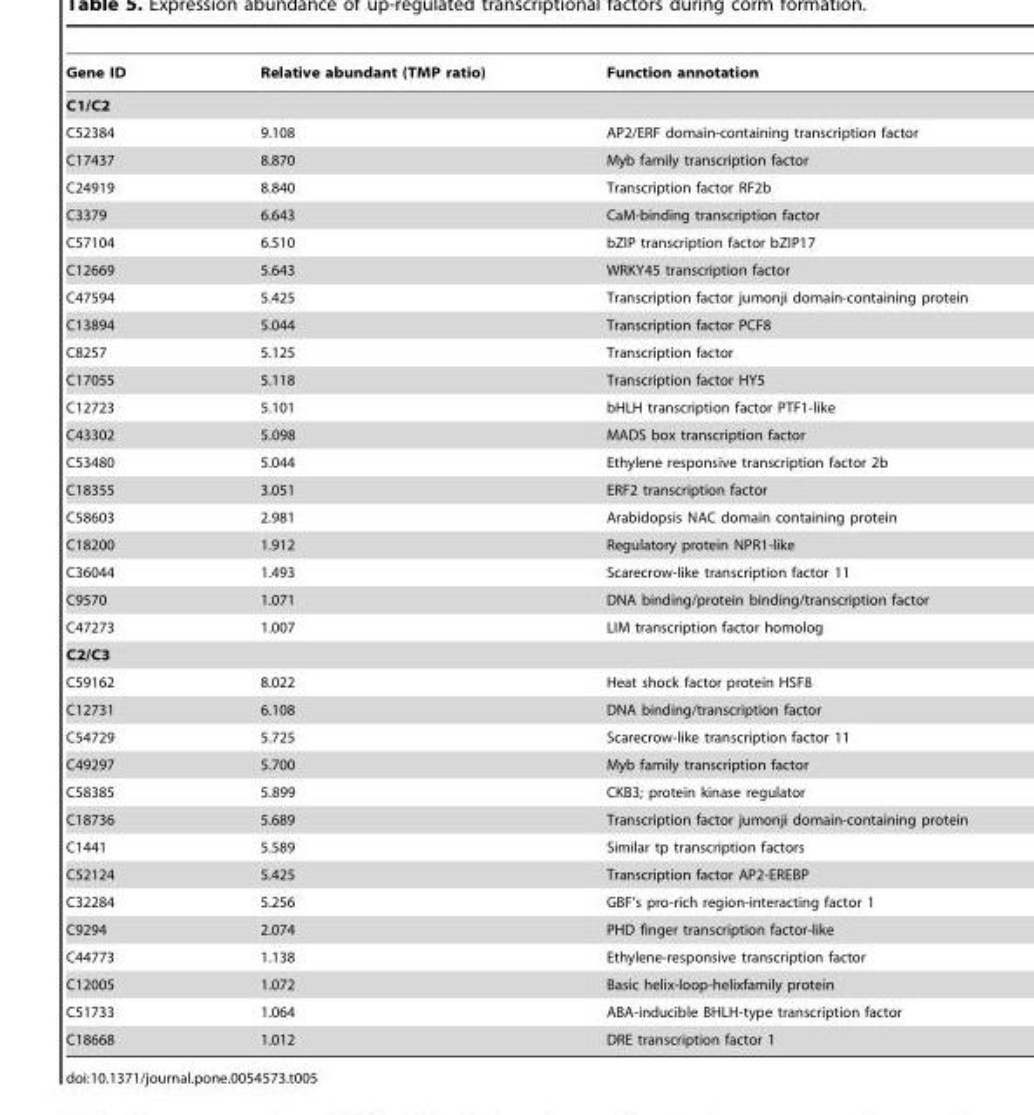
<table><thead><tr><td>Gene ID</td><td>Relative abundant (TMP ratio)</td><td>Function annotation</td></tr></thead><tbody><tr><td colspan="3">C1/C2</td></tr><tr><td>C52384</td><td>9.108</td><td>AP2/ERF domain-containing transcription factor</td></tr><tr><td>C17437</td><td>8.870</td><td>Myb family transcription factor</td></tr><tr><td>C24919</td><td>8.840</td><td>Transcription factor RF2b</td></tr><tr><td>C3379</td><td>6.643</td><td>CaM-binding transcription factor</td></tr><tr><td>C57104</td><td>6.510</td><td>bZIP transcription factor bZIP17</td></tr><tr><td>C12669</td><td>5.643</td><td>WRKY45 transcription factor</td></tr><tr><td>C47594</td><td>5.425</td><td>Transcription factor jumonji domain-containing protein</td></tr><tr><td>C13894</td><td>5.044</td><td>Transcription factor PCF8</td></tr><tr><td>C8257</td><td>5.125</td><td>Transcription factor</td></tr><tr><td>C17055</td><td>5.118</td><td>Transcription factor HY5</td></tr><tr><td>C12723</td><td>5.101</td><td>bHLH transcription factor PTF1-like</td></tr><tr><td>C43302</td><td>5.098</td><td>MADS box transcription factor</td></tr><tr><td>C53480</td><td>5.044</td><td>Ethylene responsive transcription factor 2b</td></tr><tr><td>C18355</td><td>3.051</td><td>ERF2 transcription factor</td></tr><tr><td>C58603</td><td>2.981</td><td>Arabidopsis NAC domain containing protein</td></tr><tr><td>C18200</td><td>1.912</td><td>Regulatory protein NPR1-like</td></tr><tr><td>C36044</td><td>1.493</td><td>Scarecrow-like transcription factor 11</td></tr><tr><td>C9570</td><td>1.071</td><td>DNA binding/protein binding/transcription factor</td></tr><tr><td>C47273</td><td>1.007</td><td>LIM transcription factor homolog</td></tr><tr><td colspan="3">C2/C3</td></tr><tr><td>C59162</td><td>8.022</td><td>Heat shock factor protein HSF8</td></tr><tr><td>C12731</td><td>6.108</td><td>DNA binding/transcription factor</td></tr><tr><td>C54729</td><td>5.725</td><td>Scarecrow-like transcription factor 11</td></tr><tr><td>C49297</td><td>5.700</td><td>Myb family transcription factor</td></tr><tr><td>C58385</td><td>5.899</td><td>CKB3; protein kinase regulator</td></tr><tr><td>C18736</td><td>5.689</td><td>Transcription factor jumonji domain-containing protein</td></tr><tr><td>C1441</td><td>5.589</td><td>Similar tp transcription factors</td></tr><tr><td>C52124</td><td>5.425</td><td>Transcription factor AP2-EREBP</td></tr><tr><td>C32284</td><td>5.256</td><td>GBF’s pro-rich region-interacting factor 1</td></tr><tr><td>C9294</td><td>2.074</td><td>PHD finger transcription factor-like</td></tr><tr><td>C44773</td><td>1.138</td><td>Ethylene-responsive transcription factor</td></tr><tr><td>C12005</td><td>1.072</td><td>Basic helix-loop-helixfamily protein</td></tr><tr><td>C51733</td><td>1.064</td><td>ABA-inducible BHLH-type transcription factor</td></tr><tr><td>C18668</td><td>1.012</td><td>DRE transcription factor 1</td></tr></tbody></table>